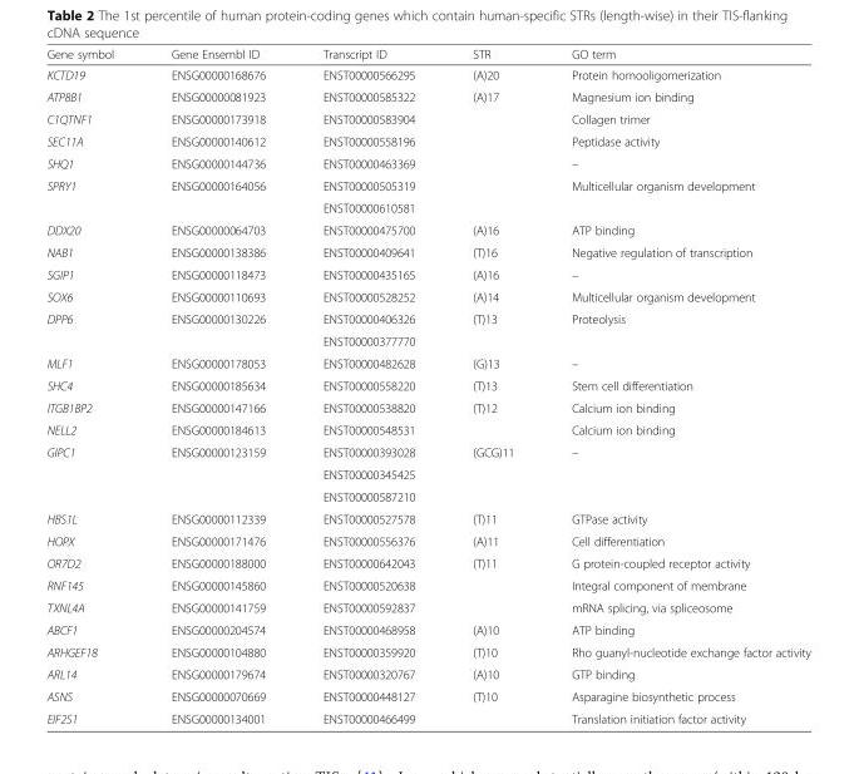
<table><thead><tr><td>Gene symbol</td><td>Gene Ensembl ID</td><td>Transcript ID</td><td>STR</td><td>GO term</td></tr></thead><tbody><tr><td>KCTD19</td><td>ENSG00000168676</td><td>ENST00000566295</td><td>(A)20</td><td>Protein homooligomerization</td></tr><tr><td>ATP8B1</td><td>ENSG00000081923</td><td>ENST00000585322</td><td rowspan="6">(A)17</td><td>Magnesium ion binding</td></tr><tr><td>C1QTNF1</td><td>ENSG00000173918</td><td>ENST00000583904</td><td>Collagen trimer</td></tr><tr><td>SEC11A</td><td>ENSG00000140612</td><td>ENST00000558196</td><td>Peptidase activity</td></tr><tr><td>SHQ1</td><td>ENSG00000144736</td><td>ENST00000463369</td><td>–</td></tr><tr><td rowspan="2">SPRY1</td><td rowspan="2">ENSG00000164056</td><td>ENST00000505319</td><td>Multicellular organism development</td></tr><tr><td>ENST00000610581</td><td></td></tr><tr><td>DDX20</td><td>ENSG00000064703</td><td>ENST00000475700</td><td>(A)16</td><td>ATP binding</td></tr><tr><td>NAB1</td><td>ENSG00000138386</td><td>ENST00000409641</td><td>(T)16</td><td>Negative regulation of transcription</td></tr><tr><td>SGIP1</td><td>ENSG00000118473</td><td>ENST00000435165</td><td>(A)16</td><td>–</td></tr><tr><td>SOX6</td><td>ENSG00000110693</td><td>ENST00000528252</td><td>(A)14</td><td>Multicellular organism development</td></tr><tr><td rowspan="2">DPP6</td><td rowspan="2">ENSG00000130226</td><td>ENST00000406326</td><td rowspan="2">(T)13</td><td>Proteolysis</td></tr><tr><td>ENST00000377770</td><td></td></tr><tr><td>MLF1</td><td>ENSG00000178053</td><td>ENST00000482628</td><td>(G)13</td><td>–</td></tr><tr><td>SHC4</td><td>ENSG00000185634</td><td>ENST00000558220</td><td>(T)13</td><td>Stem cell differentiation</td></tr><tr><td>ITGB1BP2</td><td>ENSG00000147166</td><td>ENST00000538820</td><td rowspan="2">(T)12</td><td>Calcium ion binding</td></tr><tr><td>NELL2</td><td>ENSG00000184613</td><td>ENST00000548531</td><td>Calcium ion binding</td></tr><tr><td rowspan="3">GIPC1</td><td rowspan="3">ENSG00000123159</td><td>ENST00000393028</td><td rowspan="3">(GCG)11</td><td>–</td></tr><tr><td>ENST00000345425</td><td></td></tr><tr><td>ENST00000587210</td><td></td></tr><tr><td>HBS1L</td><td>ENSG00000112339</td><td>ENST00000527578</td><td>(T)11</td><td>GTPase activity</td></tr><tr><td>HOPX</td><td>ENSG00000171476</td><td>ENST00000556376</td><td>(A)11</td><td>Cell differentiation</td></tr><tr><td>OR7D2</td><td>ENSG00000188000</td><td>ENST00000642043</td><td rowspan="3">(T)11</td><td>G protein-coupled receptor activity</td></tr><tr><td>RNF145</td><td>ENSG00000145860</td><td>ENST00000520638</td><td>Integral component of membrane</td></tr><tr><td>TXNL4A</td><td>ENSG00000141759</td><td>ENST00000592837</td><td>mRNA splicing, via spliceosome</td></tr><tr><td>ABCF1</td><td>ENSG00000204574</td><td>ENST00000468958</td><td>(A)10</td><td>ATP binding</td></tr><tr><td>ARHGEF18</td><td>ENSG00000104880</td><td>ENST00000359920</td><td>(T)10</td><td>Rho guanyl-nucleotide exchange factor activity</td></tr><tr><td>ARL14</td><td>ENSG00000179674</td><td>ENST00000320767</td><td>(A)10</td><td>GTP binding</td></tr><tr><td>ASNS</td><td>ENSG00000070669</td><td>ENST00000448127</td><td rowspan="2">(T)10</td><td>Asparagine biosynthetic process</td></tr><tr><td>EIF2S1</td><td>ENSG00000134001</td><td>ENST00000466499</td><td>Translation initiation factor activity</td></tr></tbody></table>